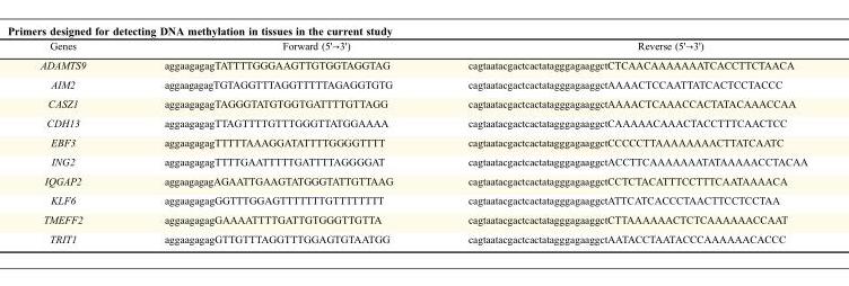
<table><thead><tr><td>Genes</td><td>Forward (5&#x27;→3&#x27;)</td><td>Reverse (5&#x27;→3&#x27;)</td></tr></thead><tbody><tr><td>ADAMTS9</td><td>aggaagagagTATTTTGGGAAGTTGTGGTAGGTAG</td><td>cagtaatacgactcactatagggagaaggctCTCAACAAAAAAATCACCTTCTAACA</td></tr><tr><td>AIM2</td><td>aggaagagagTGTAGGTTTAGGTTTTTAGAGGTGTG</td><td>cagtaatacgactcactatagggagaaggctAAAACTCCAATTATCACTCCTACCC</td></tr><tr><td>CASZ1</td><td>aggaagagagTAGGGTATGTGGTGATTTTGTTAGG</td><td>cagtaatacgactcactatagggagaaggctAAAACTCAAACCACTATACAAACCAA</td></tr><tr><td>CDH13</td><td>aggaagagagTTAGTTTTGTTTGGGTTATGGAAAA</td><td>cagtaatacgactcactatagggagaaggctCAAAAACAAACTACCTTTCAACTCC</td></tr><tr><td>EBF3</td><td>aggaagagagTTTTTAAAGGATATTTTGGGGTTTT</td><td>cagtaatacgactcactatagggagaaggctCCCCCTTAAAAAAAACTTATCAATC</td></tr><tr><td>ING2</td><td>aggaagagagTTTTGAATTTTTGATTTTAGGGGAT</td><td>cagtaatacgactcactatagggagaaggctACCTTCAAAAAAATATAAAAACCTACAA</td></tr><tr><td>IQGAP2</td><td>aggaagagagAGAATTGAAGTATGGGTATTGTTAAG</td><td>cagtaatacgactcactatagggagaaggctCCTCTACATTTCCTTTCAATAAAACA</td></tr><tr><td>KLF6</td><td>aggaagagagGGTTTGGAGTTTTTTTGTTTTTTTT</td><td>cagtaatacgactcactatagggagaaggctATTCATCACCCTAACTTCCTCCTAA</td></tr><tr><td>TMEFF2</td><td>aggaagagagGAAAATTTTGATTGTGGGTTGTTA</td><td>cagtaatacgactcactatagggagaaggctCTTAAAAAACTCTCAAAAAACCAAT</td></tr><tr><td>TRIT1</td><td>aggaagagagGTTGTTTAGGTTTGGAGTGTAATGG</td><td>cagtaatacgactcactatagggagaaggctAATACCTAATACCCAAAAAACACCC</td></tr></tbody></table>